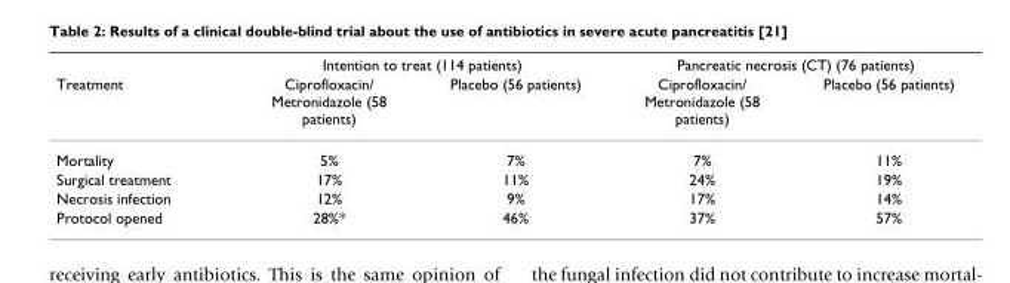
<table><thead><tr><td rowspan="2">Treatment</td><td colspan="2">Intention to treat (114 patients)</td><td colspan="2">Pancreatic necrosis (CT) (76 patients)</td></tr><tr><td>Ciprofloxacin/ Metronidazole (58 patients)</td><td>Placebo (56 patients)</td><td>Ciprofloxacin/ Metronidazole (58 patients)</td><td>Placebo (56 patients)</td></tr></thead><tbody><tr><td>Mortality</td><td>5%</td><td>7%</td><td>7%</td><td>11%</td></tr><tr><td>Surgical treatment</td><td>17%</td><td>11%</td><td>24%</td><td>19%</td></tr><tr><td>Necrosis infection</td><td>12%</td><td>9%</td><td>17%</td><td>14%</td></tr><tr><td>Protocol opened</td><td>28%*</td><td>46%</td><td>37%</td><td>57%</td></tr></tbody></table>